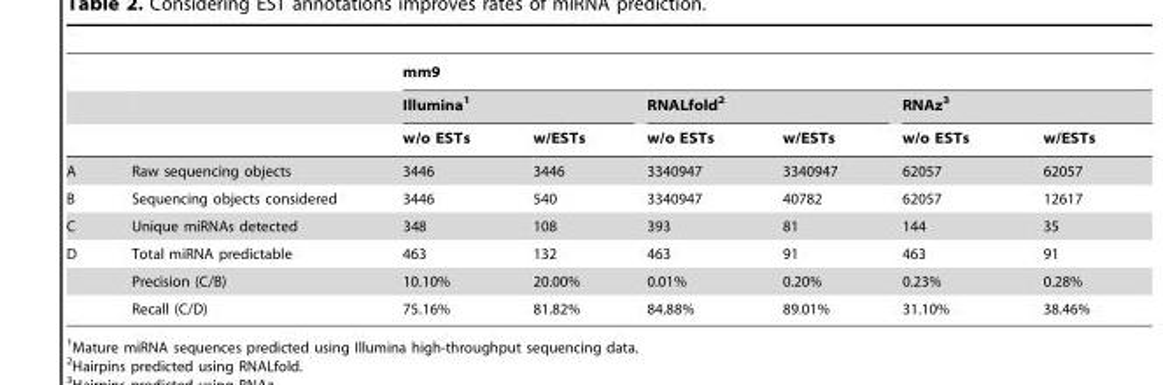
<table><thead><tr><td rowspan="3"></td><td rowspan="3"></td><td colspan="6">mm9</td></tr><tr><td colspan="2">Illumina<sup>1</sup></td><td colspan="2">RNALfold<sup>2</sup></td><td colspan="2">RNAz<sup>3</sup></td></tr><tr><td>w/o ESTs</td><td>w/ESTs</td><td>w/o ESTs</td><td>w/ESTs</td><td>w/o ESTs</td><td>w/ESTs</td></tr></thead><tbody><tr><td>A</td><td>Raw sequencing objects</td><td>3446</td><td>3446</td><td>3340947</td><td>3340947</td><td>62057</td><td>62057</td></tr><tr><td>B</td><td>Sequencing objects considered</td><td>3446</td><td>540</td><td>3340947</td><td>40782</td><td>62057</td><td>12617</td></tr><tr><td>C</td><td>Unique miRNAs detected</td><td>348</td><td>108</td><td>393</td><td>81</td><td>144</td><td>35</td></tr><tr><td rowspan="3">D</td><td>Total miRNA predictable</td><td>463</td><td>132</td><td>463</td><td>91</td><td>463</td><td>91</td></tr><tr><td>Precision (C/B)</td><td>10.10%</td><td>20.00%</td><td>0.01%</td><td>0.20%</td><td>0.23%</td><td>0.28%</td></tr><tr><td>Recall (C/D)</td><td>75.16%</td><td>81.82%</td><td>84.88%</td><td>89.01%</td><td>31.10%</td><td>38.46%</td></tr></tbody></table>